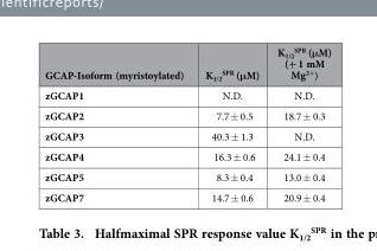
<table><thead><tr><td>GCAP-Isoform (myristoylated)</td><td>K<sub>1/2</sub> <sup>SPR</sup> (μM)</td><td>K<sub>1/2</sub> <sup>SPR</sup> (μM) (+ 1 mM Mg<sup>2+</sup>)</td></tr></thead><tbody><tr><td>zGCAP1</td><td>N.D.</td><td>N.D.</td></tr><tr><td>zGCAP2</td><td>7.7 ± 0.5</td><td>18.7 ± 0.3</td></tr><tr><td>zGCAP3</td><td>40.3 ± 1.3</td><td>N.D.</td></tr><tr><td>zGCAP4</td><td>16.3 ± 0.6</td><td>24.1 ± 0.4</td></tr><tr><td>zGCAP5</td><td>8.3 ± 0.4</td><td>13.0 ± 0.4</td></tr><tr><td>zGCAP7</td><td>14.7 ± 0.6</td><td>20.9 ± 0.4</td></tr></tbody></table>